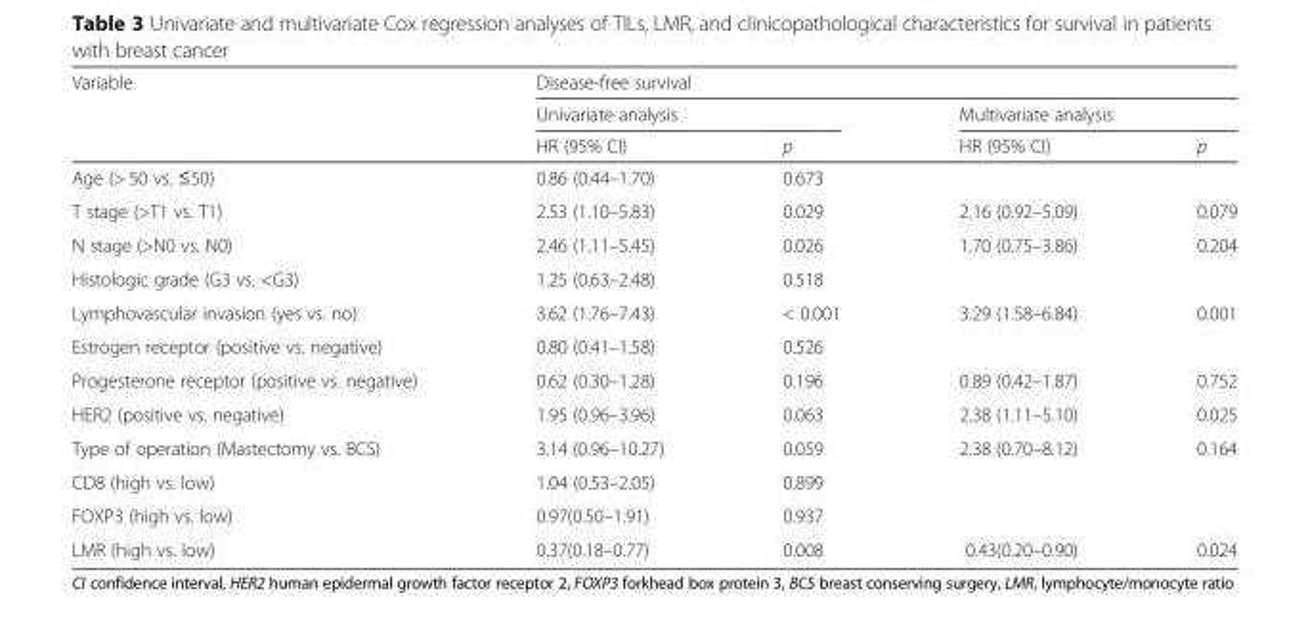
<table><thead><tr><td rowspan="3">Variable</td><td colspan="4">Disease-free survival</td></tr><tr><td colspan="2">Univariate analysis</td><td colspan="2">Multivariate analysis</td></tr><tr><td>HR (95% CI)</td><td>p</td><td>HR (95% CI)</td><td>p</td></tr></thead><tbody><tr><td>Age (&gt; 50 vs. ≤50)</td><td>0.86 (0.44–1.70)</td><td>0.673</td><td></td><td></td></tr><tr><td>T stage (&gt;T1 vs. T1)</td><td>2.53 (1.10–5.83)</td><td>0.029</td><td>2.16 (0.92–5.09)</td><td>0.079</td></tr><tr><td>N stage (&gt;N0 vs. N0)</td><td>2.46 (1.11–5.45)</td><td>0.026</td><td>1.70 (0.75–3.86)</td><td>0.204</td></tr><tr><td>Histologic grade (G3 vs. &lt;G3)</td><td>1.25 (0.63–2.48)</td><td>0.518</td><td></td><td></td></tr><tr><td>Lymphovascular invasion (yes vs. no)</td><td>3.62 (1.76–7.43)</td><td>&lt; 0.001</td><td>3.29 (1.58–6.84)</td><td>0.001</td></tr><tr><td>Estrogen receptor (positive vs. negative)</td><td>0.80 (0.41–1.58)</td><td>0.526</td><td></td><td></td></tr><tr><td>Progesterone receptor (positive vs. negative)</td><td>0.62 (0.30–1.28)</td><td>0.196</td><td>0.89 (0.42–1.87)</td><td>0.752</td></tr><tr><td>HER2 (positive vs. negative)</td><td>1.95 (0.96–3.96)</td><td>0.063</td><td>2.38 (1.11–5.10)</td><td>0.025</td></tr><tr><td>Type of operation (Mastectomy vs. BCS)</td><td>3.14 (0.96–10.27)</td><td>0.059</td><td>2.38 (0.70–8.12)</td><td>0.164</td></tr><tr><td>CD8 (high vs. low)</td><td>1.04 (0.53–2.05)</td><td>0.899</td><td></td><td></td></tr><tr><td>FOXP3 (high vs. low)</td><td>0.97(0.50–1.91)</td><td>0.937</td><td></td><td></td></tr><tr><td>LMR (high vs. low)</td><td>0.37(0.18–0.77)</td><td>0.008</td><td>0.43(0.20–0.90)</td><td>0.024</td></tr></tbody></table>